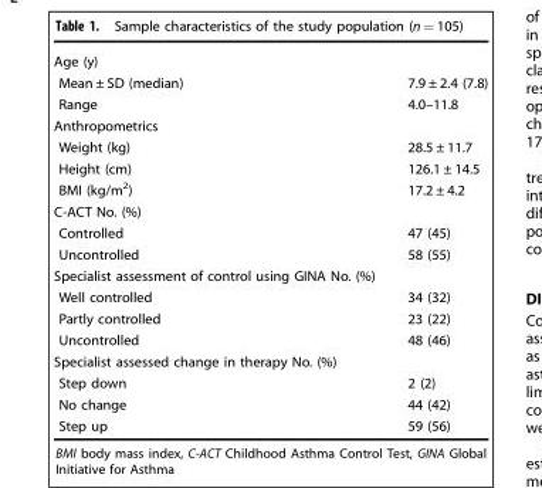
<table><tbody><tr><td colspan="2">Age (y)</td></tr><tr><td>Mean ± SD (median)</td><td>7.9 ± 2.4 (7.8)</td></tr><tr><td>Range</td><td>4.0–11.8</td></tr><tr><td colspan="2">Anthropometrics</td></tr><tr><td>Weight (kg)</td><td>28.5 ± 11.7</td></tr><tr><td>Height (cm)</td><td>126.1 ± 14.5</td></tr><tr><td>BMI (kg/m<sup>2</sup>)</td><td>17.2 ± 4.2</td></tr><tr><td colspan="2">C-ACT No. (%)</td></tr><tr><td>Controlled</td><td>47 (45)</td></tr><tr><td>Uncontrolled</td><td>58 (55)</td></tr><tr><td colspan="2">Specialist assessment of control using GINA No. (%)</td></tr><tr><td>Well controlled</td><td>34 (32)</td></tr><tr><td>Partly controlled</td><td>23 (22)</td></tr><tr><td>Uncontrolled</td><td>48 (46)</td></tr><tr><td colspan="2">Specialist assessed change in therapy No. (%)</td></tr><tr><td>Step down</td><td>2 (2)</td></tr><tr><td>No change</td><td>44 (42)</td></tr><tr><td>Step up</td><td>59 (56)</td></tr></tbody></table>